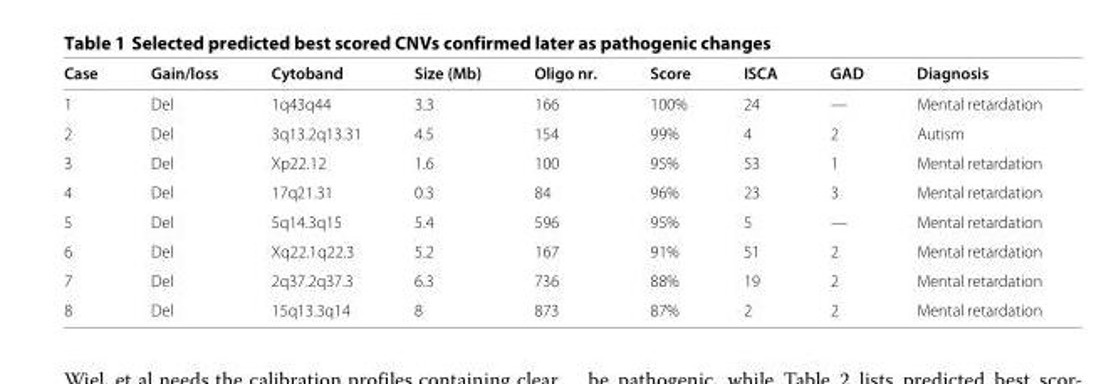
<table><thead><tr><td>Case</td><td>Gain/loss</td><td>Cytoband</td><td>Size (Mb)</td><td>Oligo nr.</td><td>Score</td><td>ISCA</td><td>GAD</td><td>Diagnosis</td></tr></thead><tbody><tr><td>1</td><td>Del</td><td>1q43q44</td><td>3.3</td><td>166</td><td>100%</td><td>24</td><td>—</td><td>Mental retardation</td></tr><tr><td>2</td><td>Del</td><td>3q13.2q13.31</td><td>4.5</td><td>154</td><td>99%</td><td>4</td><td>2</td><td>Autism</td></tr><tr><td>3</td><td>Del</td><td>Xp22.12</td><td>1.6</td><td>100</td><td>95%</td><td>53</td><td>1</td><td>Mental retardation</td></tr><tr><td>4</td><td>Del</td><td>17q21.31</td><td>0.3</td><td>84</td><td>96%</td><td>23</td><td>3</td><td>Mental retardation</td></tr><tr><td>5</td><td>Del</td><td>5q14.3q15</td><td>5.4</td><td>596</td><td>95%</td><td>5</td><td>—</td><td>Mental retardation</td></tr><tr><td>6</td><td>Del</td><td>Xq22.1q22.3</td><td>5.2</td><td>167</td><td>91%</td><td>51</td><td>2</td><td>Mental retardation</td></tr><tr><td>7</td><td>Del</td><td>2q37.2q37.3</td><td>6.3</td><td>736</td><td>88%</td><td>19</td><td>2</td><td>Mental retardation</td></tr><tr><td>8</td><td>Del</td><td>15q13.3q14</td><td>8</td><td>873</td><td>87%</td><td>2</td><td>2</td><td>Mental retardation</td></tr></tbody></table>